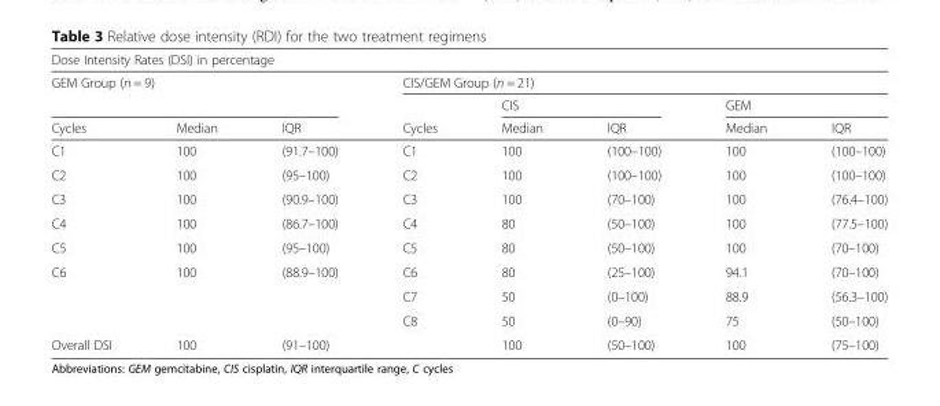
<table><thead><tr><td colspan="8">Dose Intensity Rates (DSI) in percentage</td></tr><tr><td colspan="3">GEM Group (n = 9)</td><td colspan="5">CIS/GEM Group (n = 21)</td></tr><tr><td rowspan="2">Cycles</td><td rowspan="2">Median</td><td rowspan="2">IQR</td><td rowspan="2">Cycles</td><td colspan="2">CIS</td><td colspan="2">GEM</td></tr><tr><td>Median</td><td>IQR</td><td>Median</td><td>IQR</td></tr></thead><tbody><tr><td>C1</td><td>100</td><td>(91.7–100)</td><td>C1</td><td>100</td><td>(100–100)</td><td>100</td><td>(100–100)</td></tr><tr><td>C2</td><td>100</td><td>(95–100)</td><td>C2</td><td>100</td><td>(100–100)</td><td>100</td><td>(100–100)</td></tr><tr><td>C3</td><td>100</td><td>(90.9–100)</td><td>C3</td><td>100</td><td>(70–100)</td><td>100</td><td>(76.4–100)</td></tr><tr><td>C4</td><td>100</td><td>(86.7–100)</td><td>C4</td><td>80</td><td>(50–100)</td><td>100</td><td>(77.5–100)</td></tr><tr><td>C5</td><td>100</td><td>(95–100)</td><td>C5</td><td>80</td><td>(50–100)</td><td>100</td><td>(70–100)</td></tr><tr><td rowspan="3">C6</td><td>100</td><td>(88.9–100)</td><td>C6</td><td>80</td><td>(25–100)</td><td>94.1</td><td>(70–100)</td></tr><tr><td></td><td></td><td>C7</td><td>50</td><td>(0–100)</td><td>88.9</td><td>(56.3–100)</td></tr><tr><td></td><td></td><td>C8</td><td>50</td><td>(0–90)</td><td>75</td><td>(50–100)</td></tr><tr><td>Overall DSI</td><td>100</td><td>(91–100)</td><td></td><td>100</td><td>(50–100)</td><td>100</td><td>(75–100)</td></tr></tbody></table>